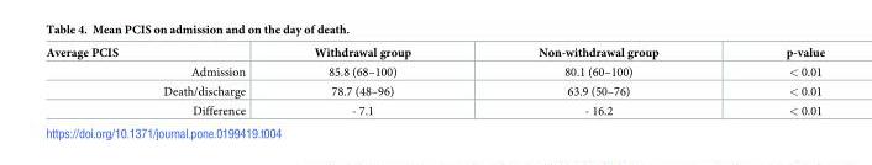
<table><thead><tr><td>Average PCIS</td><td>Withdrawal group</td><td>Non-withdrawal group</td><td>p-value</td></tr></thead><tbody><tr><td>Admission</td><td>85.8 (68–100)</td><td>80.1 (60–100)</td><td>&lt; 0.01</td></tr><tr><td>Death/discharge</td><td>78.7 (48–96)</td><td>63.9 (50–76)</td><td>&lt; 0.01</td></tr><tr><td>Difference</td><td>- 7.1</td><td>- 16.2</td><td>&lt; 0.01</td></tr></tbody></table>